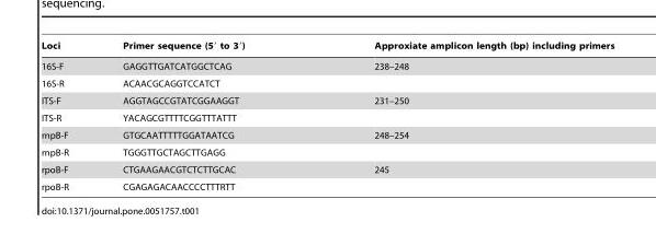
<table><thead><tr><td>Loci</td><td>Primer sequence (5′ to 3′)</td><td>Approxiate amplicon length (bp) including primers</td></tr></thead><tbody><tr><td>16S-F</td><td>GAGGTTGATCATGGCTCAG</td><td>238–248</td></tr><tr><td>16S-R</td><td>ACAACGCAGGTCCATCT</td><td></td></tr><tr><td>ITS-F</td><td>AGGTAGCCGTATCGGAAGGT</td><td>231–250</td></tr><tr><td>ITS-R</td><td>YACAGCGTTTTCGGTTTATTT</td><td></td></tr><tr><td>rnpB-F</td><td>GTGCAATTTTTGGATAATCG</td><td>248–254</td></tr><tr><td>rnpB-R</td><td>TGGGTTGCTAGCTTGAGG</td><td></td></tr><tr><td>rpoB-F</td><td>CTGAAGAACGTCTCTTGCAC</td><td>245</td></tr><tr><td>rpoB-R</td><td>CGAGAGACAACCCCTTTRTT</td><td></td></tr></tbody></table>